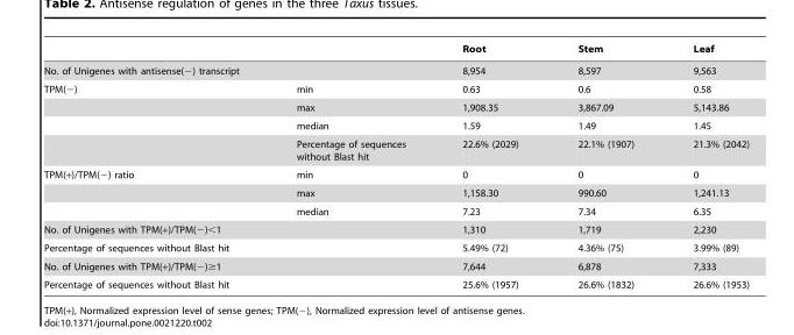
<table><thead><tr><td></td><td></td><td>Root</td><td>Stem</td><td>Leaf</td></tr></thead><tbody><tr><td colspan="2">No. of Unigenes with antisense(−) transcript</td><td>8,954</td><td>8,597</td><td>9,563</td></tr><tr><td rowspan="4">TPM(−)</td><td>min</td><td>0.63</td><td>0.6</td><td>0.58</td></tr><tr><td>max</td><td>1,908.35</td><td>3,867.09</td><td>5,143.86</td></tr><tr><td>median</td><td>1.59</td><td>1.49</td><td>1.45</td></tr><tr><td>Percentage of sequences without Blast hit</td><td>22.6% (2029)</td><td>22.1% (1907)</td><td>21.3% (2042)</td></tr><tr><td rowspan="3">TPM(+)/TPM(−) ratio</td><td>min</td><td>0</td><td>0</td><td>0</td></tr><tr><td>max</td><td>1,158.30</td><td>990.60</td><td>1,241.13</td></tr><tr><td>median</td><td>7.23</td><td>7.34</td><td>6.35</td></tr><tr><td colspan="2">No. of Unigenes with TPM(+)/TPM(−)&lt;1</td><td>1,310</td><td>1,719</td><td>2,230</td></tr><tr><td colspan="2">Percentage of sequences without Blast hit</td><td>5.49% (72)</td><td>4.36% (75)</td><td>3.99% (89)</td></tr><tr><td colspan="2">No. of Unigenes with TPM(+)/TPM(−)≥1</td><td>7,644</td><td>6,878</td><td>7,333</td></tr><tr><td colspan="2">Percentage of sequences without Blast hit</td><td>25.6% (1957)</td><td>26.6% (1832)</td><td>26.6% (1953)</td></tr></tbody></table>